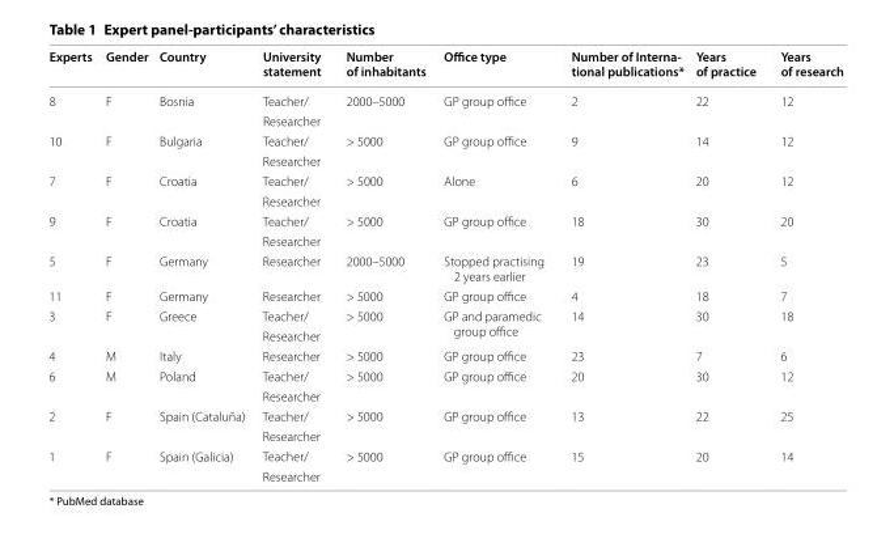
<table><thead><tr><td>Experts</td><td>Gender</td><td>Country</td><td>University statement</td><td>Number of inhabitants</td><td>Office type</td><td>Number of Interna- tional publications*</td><td>Years of practice</td><td>Years of research</td></tr></thead><tbody><tr><td rowspan="2">8</td><td rowspan="2">F</td><td rowspan="2">Bosnia</td><td>Teacher/</td><td rowspan="2">2000–5000</td><td rowspan="2">GP group office</td><td rowspan="2">2</td><td rowspan="2">22</td><td rowspan="2">12</td></tr><tr><td>Researcher</td></tr><tr><td rowspan="2">10</td><td rowspan="2">F</td><td rowspan="2">Bulgaria</td><td>Teacher/</td><td rowspan="2">&gt; 5000</td><td rowspan="2">GP group office</td><td rowspan="2">9</td><td rowspan="2">14</td><td rowspan="2">12</td></tr><tr><td>Researcher</td></tr><tr><td rowspan="2">7</td><td rowspan="2">F</td><td rowspan="2">Croatia</td><td>Teacher/</td><td rowspan="2">&gt; 5000</td><td rowspan="2">Alone</td><td rowspan="2">6</td><td rowspan="2">20</td><td rowspan="2">12</td></tr><tr><td>Researcher</td></tr><tr><td rowspan="2">9</td><td rowspan="2">F</td><td rowspan="2">Croatia</td><td>Teacher/</td><td rowspan="2">&gt; 5000</td><td rowspan="2">GP group office</td><td rowspan="2">18</td><td rowspan="2">30</td><td rowspan="2">20</td></tr><tr><td>Researcher</td></tr><tr><td>5</td><td>F</td><td>Germany</td><td>Researcher</td><td>2000–5000</td><td>Stopped practising 2 years earlier</td><td>19</td><td>23</td><td>5</td></tr><tr><td>11</td><td>F</td><td>Germany</td><td>Researcher</td><td>&gt; 5000</td><td>GP group office</td><td>4</td><td>18</td><td>7</td></tr><tr><td rowspan="2">3</td><td rowspan="2">F</td><td rowspan="2">Greece</td><td>Teacher/</td><td rowspan="2">&gt; 5000</td><td rowspan="2">GP and paramedic group office</td><td rowspan="2">14</td><td rowspan="2">30</td><td rowspan="2">18</td></tr><tr><td>Researcher</td></tr><tr><td>4</td><td>M</td><td>Italy</td><td>Researcher</td><td>&gt; 5000</td><td>GP group office</td><td>23</td><td>7</td><td>6</td></tr><tr><td rowspan="2">6</td><td rowspan="2">M</td><td rowspan="2">Poland</td><td>Teacher/</td><td rowspan="2">&gt; 5000</td><td rowspan="2">GP group office</td><td rowspan="2">20</td><td rowspan="2">30</td><td rowspan="2">12</td></tr><tr><td>Researcher</td></tr><tr><td rowspan="2">2</td><td rowspan="2">F</td><td rowspan="2">Spain (Cataluña)</td><td>Teacher/</td><td rowspan="2">&gt; 5000</td><td rowspan="2">GP group office</td><td rowspan="2">13</td><td rowspan="2">22</td><td rowspan="2">25</td></tr><tr><td>Researcher</td></tr><tr><td rowspan="2">1</td><td rowspan="2">F</td><td rowspan="2">Spain (Galicia)</td><td>Teacher/</td><td rowspan="2">&gt; 5000</td><td rowspan="2">GP group office</td><td rowspan="2">15</td><td rowspan="2">20</td><td rowspan="2">14</td></tr><tr><td>Researcher</td></tr></tbody></table>